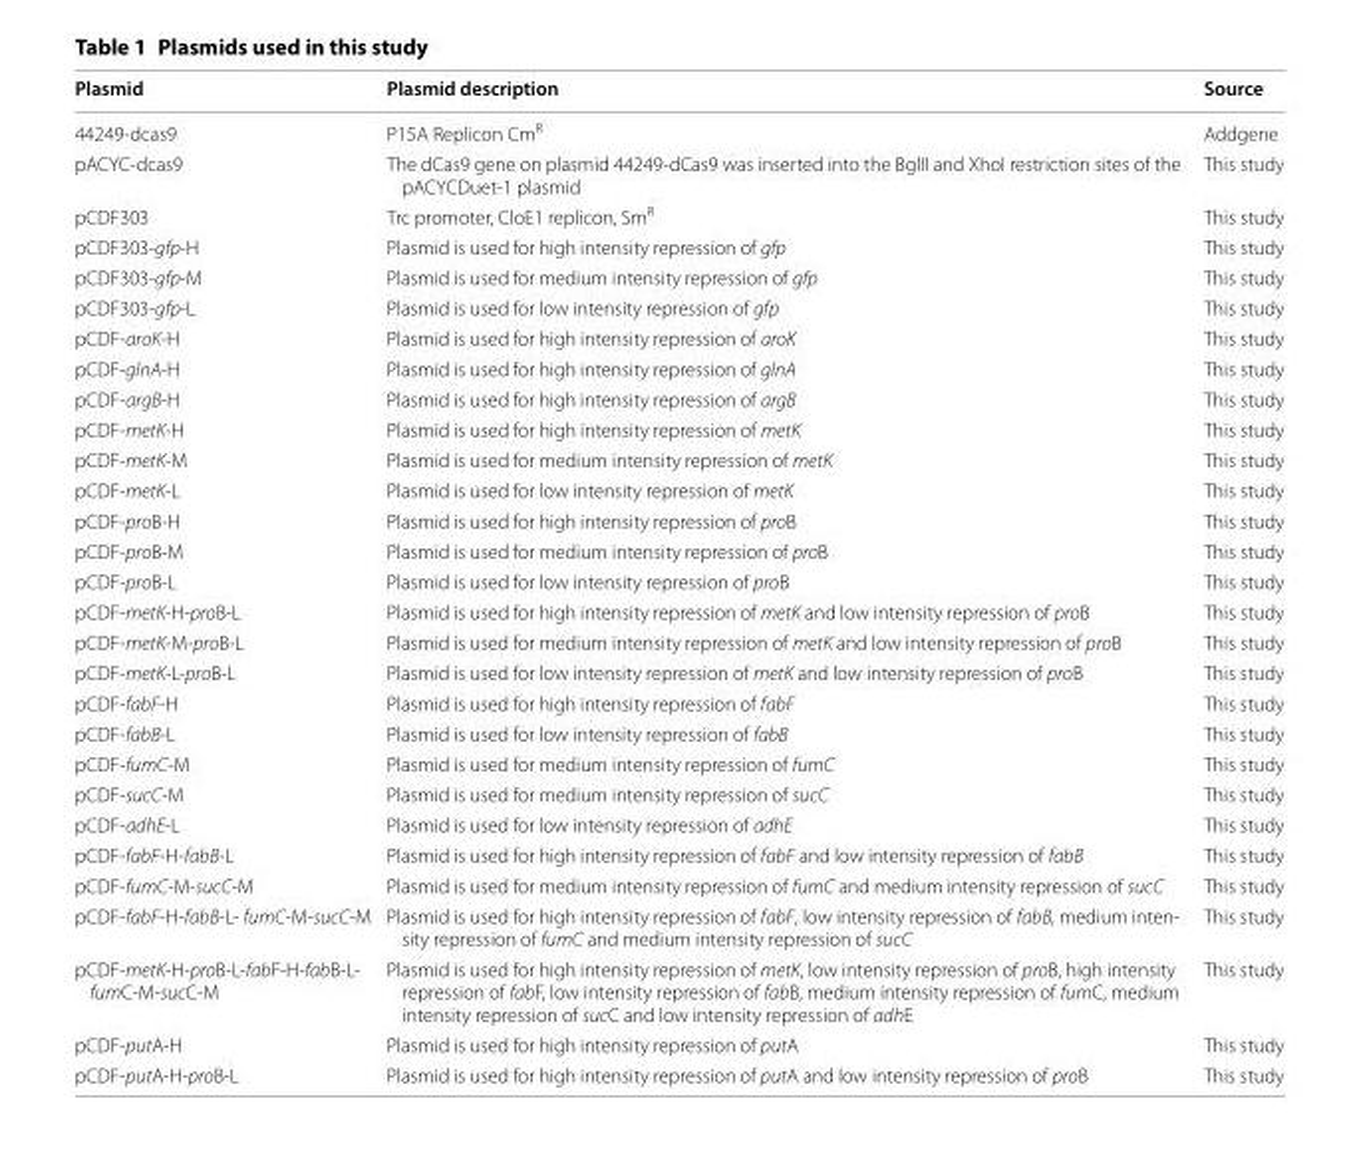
<table><thead><tr><td>Plasmid</td><td>Plasmid description</td><td>Source</td></tr></thead><tbody><tr><td>44249-dcas9</td><td>P15A Replicon Cm<sup>R</sup></td><td>Addgene</td></tr><tr><td>pACYC-dcas9</td><td>The dCas9 gene on plasmid 44249-dCas9 was inserted into the BglII and XhoI restriction sites of the pACYCDuet-1 plasmid</td><td>This study</td></tr><tr><td>pCDF303</td><td>Trc promoter, CloE1 replicon, Sm<sup>R</sup></td><td>This study</td></tr><tr><td>pCDF303-gfp-H</td><td>Plasmid is used for high intensity repression of gfp</td><td>This study</td></tr><tr><td>pCDF303-gfp-M</td><td>Plasmid is used for medium intensity repression of gfp</td><td>This study</td></tr><tr><td>pCDF303-gfp-L</td><td>Plasmid is used for low intensity repression of gfp</td><td>This study</td></tr><tr><td>pCDF-aroK-H</td><td>Plasmid is used for high intensity repression of aroK</td><td>This study</td></tr><tr><td>pCDF-glnA-H</td><td>Plasmid is used for high intensity repression of glnA</td><td>This study</td></tr><tr><td>pCDF-argB-H</td><td>Plasmid is used for high intensity repression of argB</td><td>This study</td></tr><tr><td>pCDF-metK-H</td><td>Plasmid is used for high intensity repression of metK</td><td>This study</td></tr><tr><td>pCDF-metK-M</td><td>Plasmid is used for medium intensity repression of metK</td><td>This study</td></tr><tr><td>pCDF-metK-L</td><td>Plasmid is used for low intensity repression of metK</td><td>This study</td></tr><tr><td>pCDF-proB-H</td><td>Plasmid is used for high intensity repression of proB</td><td>This study</td></tr><tr><td>pCDF-proB-M</td><td>Plasmid is used for medium intensity repression of proB</td><td>This study</td></tr><tr><td>pCDF-proB-L</td><td>Plasmid is used for low intensity repression of proB</td><td>This study</td></tr><tr><td>pCDF-metK-H-proB-L</td><td>Plasmid is used for high intensity repression of metK and low intensity repression of proB</td><td>This study</td></tr><tr><td>pCDF-metK-M-proB-L</td><td>Plasmid is used for medium intensity repression of metK and low intensity repression of proB</td><td>This study</td></tr><tr><td>pCDF-metK-L-proB-L</td><td>Plasmid is used for low intensity repression of metK and low intensity repression of proB</td><td>This study</td></tr><tr><td>pCDF-fabF-H</td><td>Plasmid is used for high intensity repression of fabF</td><td>This study</td></tr><tr><td>pCDF-fabB-L</td><td>Plasmid is used for low intensity repression of fabB</td><td>This study</td></tr><tr><td>pCDF-fumC-M</td><td>Plasmid is used for medium intensity repression of fumC</td><td>This study</td></tr><tr><td>pCDF-sucC-M</td><td>Plasmid is used for medium intensity repression of sucC</td><td>This study</td></tr><tr><td>pCDF-adhE-L</td><td>Plasmid is used for low intensity repression of adhE</td><td>This study</td></tr><tr><td>pCDF-fabF-H-fabB-L</td><td>Plasmid is used for high intensity repression of fabF and low intensity repression of fabB</td><td>This study</td></tr><tr><td>pCDF-fumC-M-sucC-M</td><td>Plasmid is used for medium intensity repression of fumC and medium intensity repression of sucC</td><td>This study</td></tr><tr><td>pCDF-fabF-H-fabB-L- fumC-M-sucC-M</td><td>Plasmid is used for high intensity repression of fabF, low intensity repression of fabB, medium inten- sity repression of fumC and medium intensity repression of sucC</td><td>This study</td></tr><tr><td>pCDF-metK-H-proB-L-fabF-H-fabB-L- fumC-M-sucC-M</td><td>Plasmid is used for high intensity repression of metK, low intensity repression of proB, high intensity repression of fabF, low intensity repression of fabB, medium intensity repression of fumC, medium intensity repression of sucC and low intensity repression of adhE</td><td>This study</td></tr><tr><td>pCDF-putA-H</td><td>Plasmid is used for high intensity repression of putA</td><td>This study</td></tr><tr><td>pCDF-putA-H-proB-L</td><td>Plasmid is used for high intensity repression of putA and low intensity repression of proB</td><td>This study</td></tr></tbody></table>